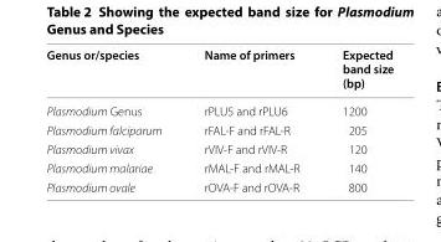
<table><thead><tr><td>Genus or/species</td><td>Name of primers</td><td>Expected band size (bp)</td></tr></thead><tbody><tr><td>Plasmodium Genus</td><td>rPLU5 and rPLU6</td><td>1200</td></tr><tr><td>Plasmodium falciparum</td><td>rFAL‑F and rFAL‑R</td><td>205</td></tr><tr><td>Plasmodium vivax</td><td>rVIV‑F and rVIV‑R</td><td>120</td></tr><tr><td>Plasmodium malariae</td><td>rMAL‑F and rMAL‑R</td><td>140</td></tr><tr><td>Plasmodium ovale</td><td>rOVA‑F and rOVA‑R</td><td>800</td></tr></tbody></table>